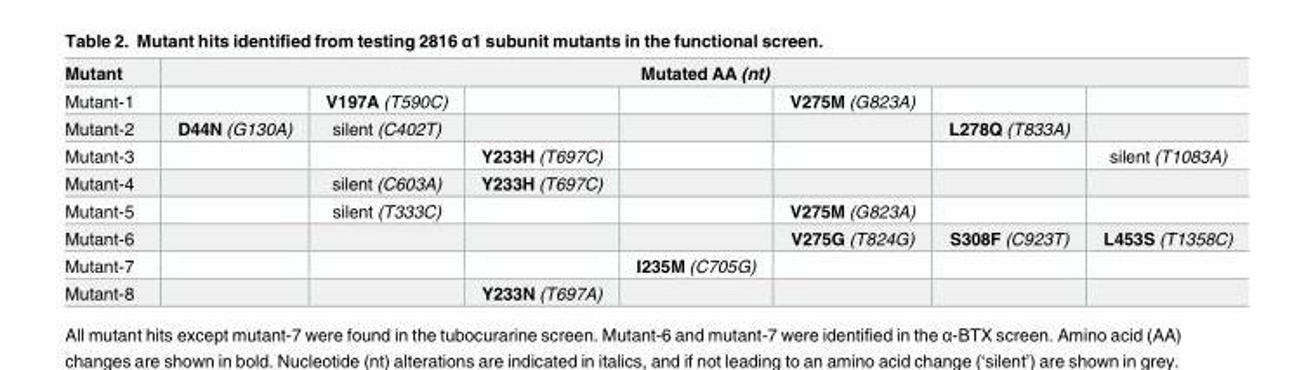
<table><thead><tr><td rowspan="2">Mutant Mutant-1</td><td colspan="7">Mutated AA (nt)</td></tr><tr><td></td><td>V197A (T590C)</td><td></td><td></td><td>V275M (G823A)</td><td></td><td></td></tr></thead><tbody><tr><td>Mutant-2</td><td>D44N (G130A)</td><td>silent (C402T)</td><td></td><td></td><td></td><td>L278Q (T833A)</td><td></td></tr><tr><td>Mutant-3</td><td></td><td></td><td>Y233H (T697C)</td><td></td><td></td><td></td><td>silent (T1083A)</td></tr><tr><td>Mutant-4</td><td></td><td>silent (C603A)</td><td>Y233H (T697C)</td><td></td><td></td><td></td><td></td></tr><tr><td>Mutant-5</td><td></td><td>silent (T333C)</td><td></td><td></td><td>V275M (G823A)</td><td></td><td></td></tr><tr><td>Mutant-6</td><td></td><td></td><td></td><td></td><td>V275G (T824G)</td><td>S308F (C923T)</td><td>L453S (T1358C)</td></tr><tr><td>Mutant-7</td><td></td><td></td><td></td><td>I235M (C705G)</td><td></td><td></td><td></td></tr><tr><td>Mutant-8</td><td></td><td></td><td>Y233N (T697A)</td><td></td><td></td><td></td><td></td></tr></tbody></table>